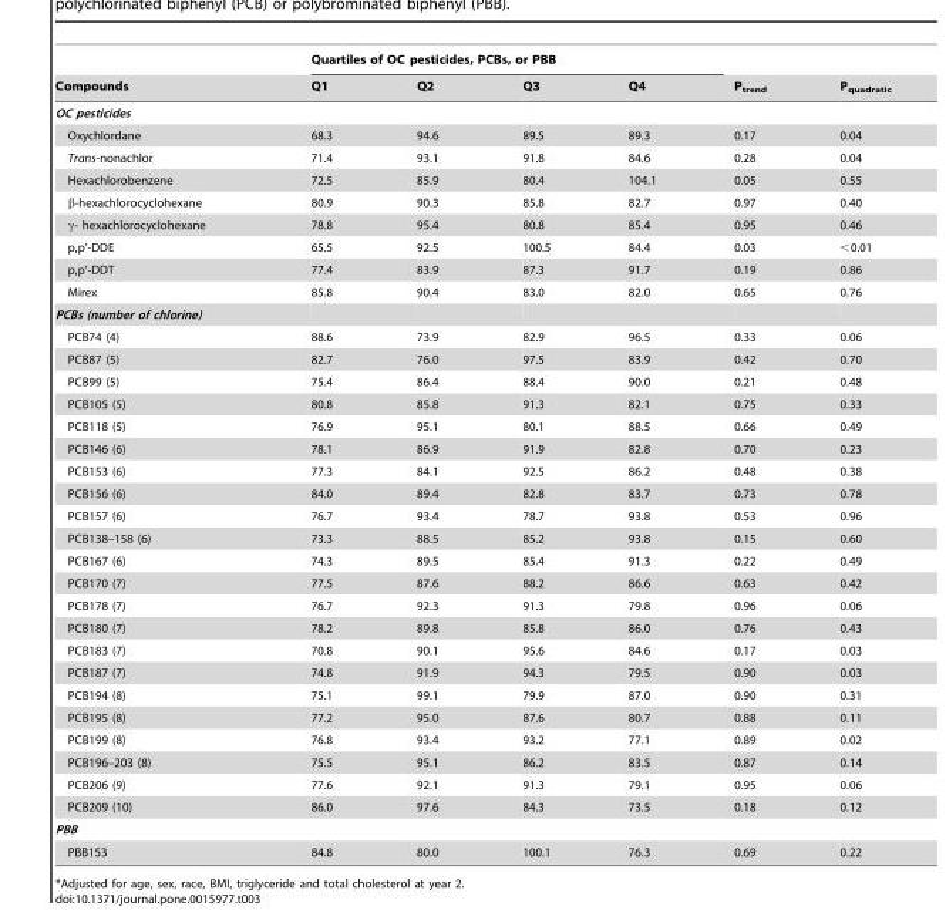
<table><thead><tr><td rowspan="2">Compounds</td><td colspan="4">Quartiles of OC pesticides, PCBs, or PBB</td><td rowspan="2">P<sub>trend</sub></td><td rowspan="2">P<sub>quadratic</sub></td></tr><tr><td>Q1</td><td>Q2</td><td>Q3</td><td>Q4</td></tr></thead><tbody><tr><td colspan="7">OC pesticides</td></tr><tr><td>Oxychlordane</td><td>68.3</td><td>94.6</td><td>89.5</td><td>89.3</td><td>0.17</td><td>0.04</td></tr><tr><td>Trans-nonachlor</td><td>71.4</td><td>93.1</td><td>91.8</td><td>84.6</td><td>0.28</td><td>0.04</td></tr><tr><td>Hexachlorobenzene</td><td>72.5</td><td>85.9</td><td>80.4</td><td>104.1</td><td>0.05</td><td>0.55</td></tr><tr><td>β-hexachlorocyclohexane</td><td>80.9</td><td>90.3</td><td>85.8</td><td>82.7</td><td>0.97</td><td>0.40</td></tr><tr><td>γ- hexachlorocyclohexane</td><td>78.8</td><td>95.4</td><td>80.8</td><td>85.4</td><td>0.95</td><td>0.46</td></tr><tr><td>p,p’-DDE</td><td>65.5</td><td>92.5</td><td>100.5</td><td>84.4</td><td>0.03</td><td>&lt;0.01</td></tr><tr><td>p,p’-DDT</td><td>77.4</td><td>83.9</td><td>87.3</td><td>91.7</td><td>0.19</td><td>0.86</td></tr><tr><td>Mirex</td><td>85.8</td><td>90.4</td><td>83.0</td><td>82.0</td><td>0.65</td><td>0.76</td></tr><tr><td colspan="7">PCBs (number of chlorine)</td></tr><tr><td>PCB74 (4)</td><td>88.6</td><td>73.9</td><td>82.9</td><td>96.5</td><td>0.33</td><td>0.06</td></tr><tr><td>PCB87 (5)</td><td>82.7</td><td>76.0</td><td>97.5</td><td>83.9</td><td>0.42</td><td>0.70</td></tr><tr><td>PCB99 (5)</td><td>75.4</td><td>86.4</td><td>88.4</td><td>90.0</td><td>0.21</td><td>0.48</td></tr><tr><td>PCB105 (5)</td><td>80.8</td><td>85.8</td><td>91.3</td><td>82.1</td><td>0.75</td><td>0.33</td></tr><tr><td>PCB118 (5)</td><td>76.9</td><td>95.1</td><td>80.1</td><td>88.5</td><td>0.66</td><td>0.49</td></tr><tr><td>PCB146 (6)</td><td>78.1</td><td>86.9</td><td>91.9</td><td>82.8</td><td>0.70</td><td>0.23</td></tr><tr><td>PCB153 (6)</td><td>77.3</td><td>84.1</td><td>92.5</td><td>86.2</td><td>0.48</td><td>0.38</td></tr><tr><td>PCB156 (6)</td><td>84.0</td><td>89.4</td><td>82.8</td><td>83.7</td><td>0.73</td><td>0.78</td></tr><tr><td>PCB157 (6)</td><td>76.7</td><td>93.4</td><td>78.7</td><td>93.8</td><td>0.53</td><td>0.96</td></tr><tr><td>PCB138–158 (6)</td><td>73.3</td><td>88.5</td><td>85.2</td><td>93.8</td><td>0.15</td><td>0.60</td></tr><tr><td>PCB167 (6)</td><td>74.3</td><td>89.5</td><td>85.4</td><td>91.3</td><td>0.22</td><td>0.49</td></tr><tr><td>PCB170 (7)</td><td>77.5</td><td>87.6</td><td>88.2</td><td>86.6</td><td>0.63</td><td>0.42</td></tr><tr><td>PCB178 (7)</td><td>76.7</td><td>92.3</td><td>91.3</td><td>79.8</td><td>0.96</td><td>0.06</td></tr><tr><td>PCB180 (7)</td><td>78.2</td><td>89.8</td><td>85.8</td><td>86.0</td><td>0.76</td><td>0.43</td></tr><tr><td>PCB183 (7)</td><td>70.8</td><td>90.1</td><td>95.6</td><td>84.6</td><td>0.17</td><td>0.03</td></tr><tr><td>PCB187 (7)</td><td>74.8</td><td>91.9</td><td>94.3</td><td>79.5</td><td>0.90</td><td>0.03</td></tr><tr><td>PCB194 (8)</td><td>75.1</td><td>99.1</td><td>79.9</td><td>87.0</td><td>0.90</td><td>0.31</td></tr><tr><td>PCB195 (8)</td><td>77.2</td><td>95.0</td><td>87.6</td><td>80.7</td><td>0.88</td><td>0.11</td></tr><tr><td>PCB199 (8)</td><td>76.8</td><td>93.4</td><td>93.2</td><td>77.1</td><td>0.89</td><td>0.02</td></tr><tr><td>PCB196–203 (8)</td><td>75.5</td><td>95.1</td><td>86.2</td><td>83.5</td><td>0.87</td><td>0.14</td></tr><tr><td>PCB206 (9)</td><td>77.6</td><td>92.1</td><td>91.3</td><td>79.1</td><td>0.95</td><td>0.06</td></tr><tr><td>PCB209 (10)</td><td>86.0</td><td>97.6</td><td>84.3</td><td>73.5</td><td>0.18</td><td>0.12</td></tr><tr><td colspan="7">PBB</td></tr><tr><td>PBB153</td><td>84.8</td><td>80.0</td><td>100.1</td><td>76.3</td><td>0.69</td><td>0.22</td></tr></tbody></table>